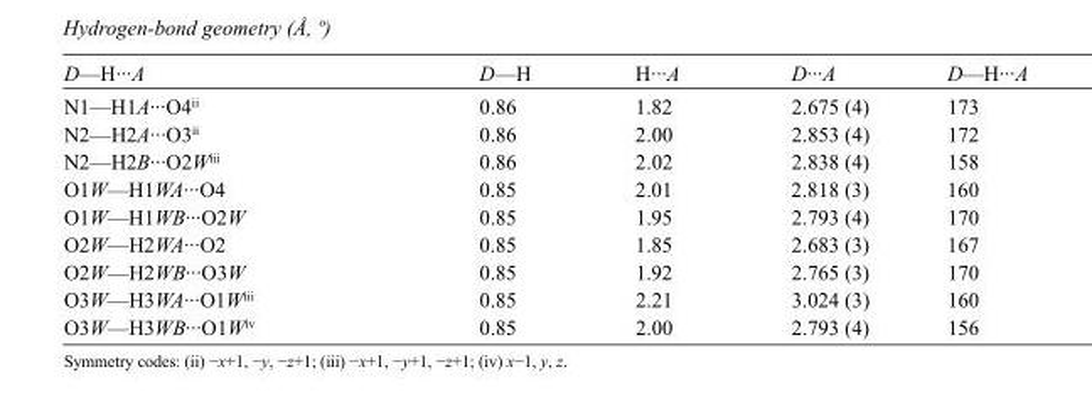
<table><tbody><tr><td>D—H···A</td><td>D—H</td><td>H···A</td><td>D···A</td><td>D—H···A</td></tr><tr><td>N1—H1A···O4<sup>ii</sup></td><td>0.86</td><td>1.82</td><td>2.675 (4)</td><td>173</td></tr><tr><td>N2—H2A···O3<sup>ii</sup></td><td>0.86</td><td>2.00</td><td>2.853 (4)</td><td>172</td></tr><tr><td>N2—H2B···O2W<sup>iii</sup></td><td>0.86</td><td>2.02</td><td>2.838 (4)</td><td>158</td></tr><tr><td>O1W—H1WA···O4</td><td>0.85</td><td>2.01</td><td>2.818 (3)</td><td>160</td></tr><tr><td>O1W—H1WB···O2W</td><td>0.85</td><td>1.95</td><td>2.793 (4)</td><td>170</td></tr><tr><td>O2W—H2WA···O2</td><td>0.85</td><td>1.85</td><td>2.683 (3)</td><td>167</td></tr><tr><td>O2W—H2WB···O3W</td><td>0.85</td><td>1.92</td><td>2.765 (3)</td><td>170</td></tr><tr><td>O3W—H3WA···O1W<sup>iii</sup></td><td>0.85</td><td>2.21</td><td>3.024 (3)</td><td>160</td></tr><tr><td>O3W—H3WB···O1W<sup>iv</sup></td><td>0.85</td><td>2.00</td><td>2.793 (4)</td><td>156</td></tr></tbody></table>